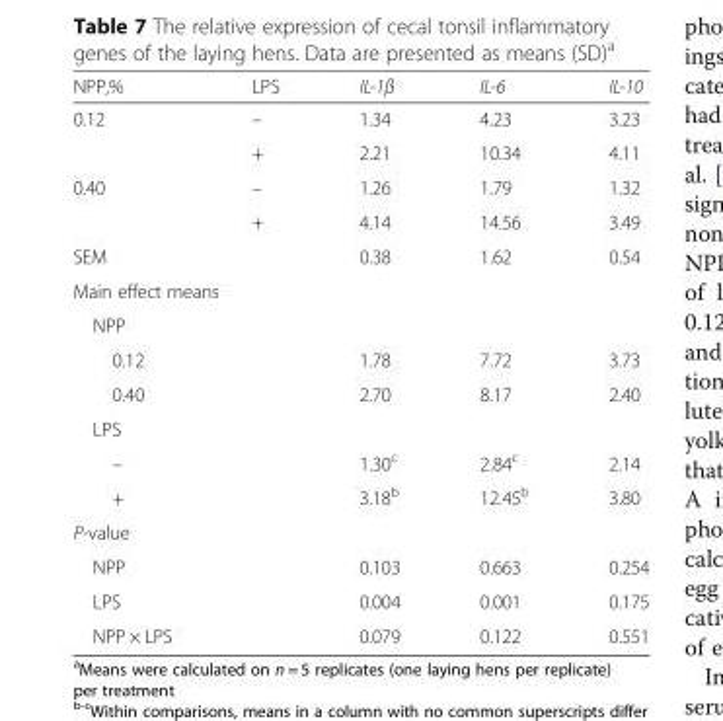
<table><thead><tr><td>NPP,%</td><td>LPS</td><td>IL-1β</td><td>IL-6</td><td>IL-10</td></tr></thead><tbody><tr><td rowspan="2">0.12</td><td>–</td><td>1.34</td><td>4.23</td><td>3.23</td></tr><tr><td>+</td><td>2.21</td><td>10.34</td><td>4.11</td></tr><tr><td rowspan="2">0.40</td><td>–</td><td>1.26</td><td>1.79</td><td>1.32</td></tr><tr><td>+</td><td>4.14</td><td>14.56</td><td>3.49</td></tr><tr><td>SEM</td><td></td><td>0.38</td><td>1.62</td><td>0.54</td></tr><tr><td colspan="5">Main effect means</td></tr><tr><td colspan="5">NPP</td></tr><tr><td>0.12</td><td></td><td>1.78</td><td>7.72</td><td>3.73</td></tr><tr><td>0.40</td><td></td><td>2.70</td><td>8.17</td><td>2.40</td></tr><tr><td colspan="5">LPS</td></tr><tr><td>–</td><td></td><td>1.30<sup>c</sup></td><td>2.84<sup>c</sup></td><td>2.14</td></tr><tr><td>+</td><td></td><td>3.18<sup>b</sup></td><td>12.45<sup>b</sup></td><td>3.80</td></tr><tr><td colspan="5">P-value</td></tr><tr><td>NPP</td><td></td><td>0.103</td><td>0.663</td><td>0.254</td></tr><tr><td>LPS</td><td></td><td>0.004</td><td>0.001</td><td>0.175</td></tr><tr><td>NPP × LPS</td><td></td><td>0.079</td><td>0.122</td><td>0.551</td></tr></tbody></table>